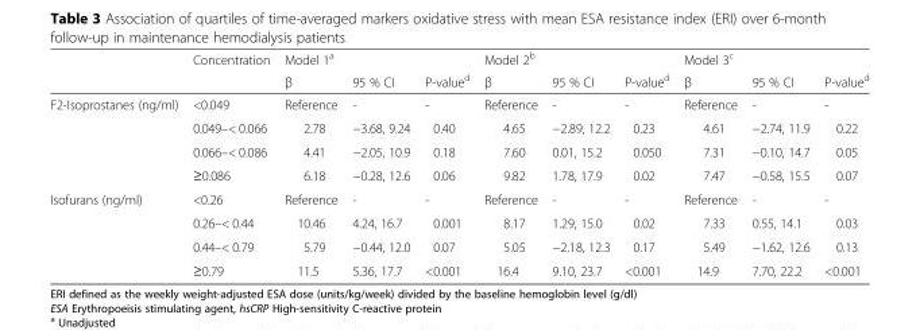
<table><thead><tr><td rowspan="2"></td><td rowspan="2">Concentration</td><td colspan="3">Model 1<sup>a</sup></td><td colspan="3">Model 2<sup>b</sup></td><td colspan="3">Model 3<sup>c</sup></td></tr><tr><td>β</td><td>95 % CI</td><td>P-value<sup>d</sup></td><td>β</td><td>95 % CI</td><td>P-value<sup>d</sup></td><td>β</td><td>95 % CI</td><td>P-value<sup>d</sup></td></tr></thead><tbody><tr><td rowspan="4">F2-Isoprostanes (ng/ml)</td><td>&lt;0.049</td><td>Reference</td><td>-</td><td>-</td><td>Reference</td><td>-</td><td>-</td><td>Reference</td><td>-</td><td>-</td></tr><tr><td>0.049–&lt; 0.066</td><td>2.78</td><td>−3.68, 9.24</td><td>0.40</td><td>4.65</td><td>−2.89, 12.2</td><td>0.23</td><td>4.61</td><td>−2.74, 11.9</td><td>0.22</td></tr><tr><td>0.066–&lt; 0.086</td><td>4.41</td><td>−2.05, 10.9</td><td>0.18</td><td>7.60</td><td>0.01, 15.2</td><td>0.050</td><td>7.31</td><td>−0.10, 14.7</td><td>0.05</td></tr><tr><td>≥0.086</td><td>6.18</td><td>−0.28, 12.6</td><td>0.06</td><td>9.82</td><td>1.78, 17.9</td><td>0.02</td><td>7.47</td><td>−0.58, 15.5</td><td>0.07</td></tr><tr><td rowspan="4">Isofurans (ng/ml)</td><td>&lt;0.26</td><td>Reference</td><td>-</td><td>-</td><td>Reference</td><td>-</td><td>-</td><td>Reference</td><td>-</td><td>-</td></tr><tr><td>0.26–&lt; 0.44</td><td>10.46</td><td>4.24, 16.7</td><td>0.001</td><td>8.17</td><td>1.29, 15.0</td><td>0.02</td><td>7.33</td><td>0.55, 14.1</td><td>0.03</td></tr><tr><td>0.44–&lt; 0.79</td><td>5.79</td><td>−0.44, 12.0</td><td>0.07</td><td>5.05</td><td>−2.18, 12.3</td><td>0.17</td><td>5.49</td><td>−1.62, 12.6</td><td>0.13</td></tr><tr><td>≥0.79</td><td>11.5</td><td>5.36, 17.7</td><td>&lt;0.001</td><td>16.4</td><td>9.10, 23.7</td><td>&lt;0.001</td><td>14.9</td><td>7.70, 22.2</td><td>&lt;0.001</td></tr></tbody></table>